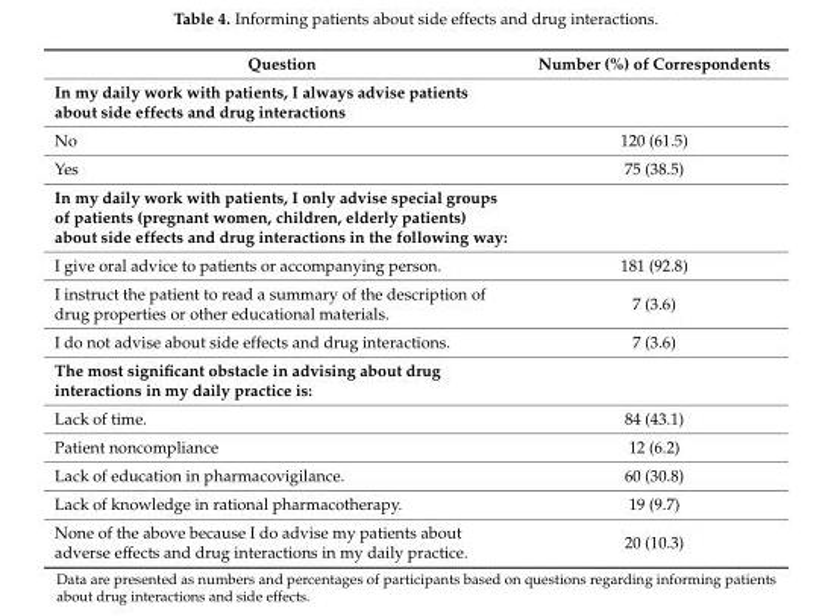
<table><thead><tr><td>Question</td><td>Number (%) of Correspondents</td></tr></thead><tbody><tr><td colspan="2">In my daily work with patients, I always advise patients about side effects and drug interactions</td></tr><tr><td>No</td><td>120 (61.5)</td></tr><tr><td>Yes</td><td>75 (38.5)</td></tr><tr><td colspan="2">In my daily work with patients, I only advise special groups of patients (pregnant women, children, elderly patients) about side effects and drug interactions in the following way:</td></tr><tr><td>I give oral advice to patients or accompanying person.</td><td>181 (92.8)</td></tr><tr><td>I instruct the patient to read a summary of the description of drug properties or other educational materials.</td><td>7 (3.6)</td></tr><tr><td>I do not advise about side effects and drug interactions.</td><td>7 (3.6)</td></tr><tr><td colspan="2">The most significant obstacle in advising about drug interactions in my daily practice is:</td></tr><tr><td>Lack of time.</td><td>84 (43.1)</td></tr><tr><td>Patient noncompliance</td><td>12 (6.2)</td></tr><tr><td>Lack of education in pharmacovigilance.</td><td>60 (30.8)</td></tr><tr><td>Lack of knowledge in rational pharmacotherapy.</td><td>19 (9.7)</td></tr><tr><td>None of the above because I do advise my patients about adverse effects and drug interactions in my daily practice.</td><td>20 (10.3)</td></tr></tbody></table>